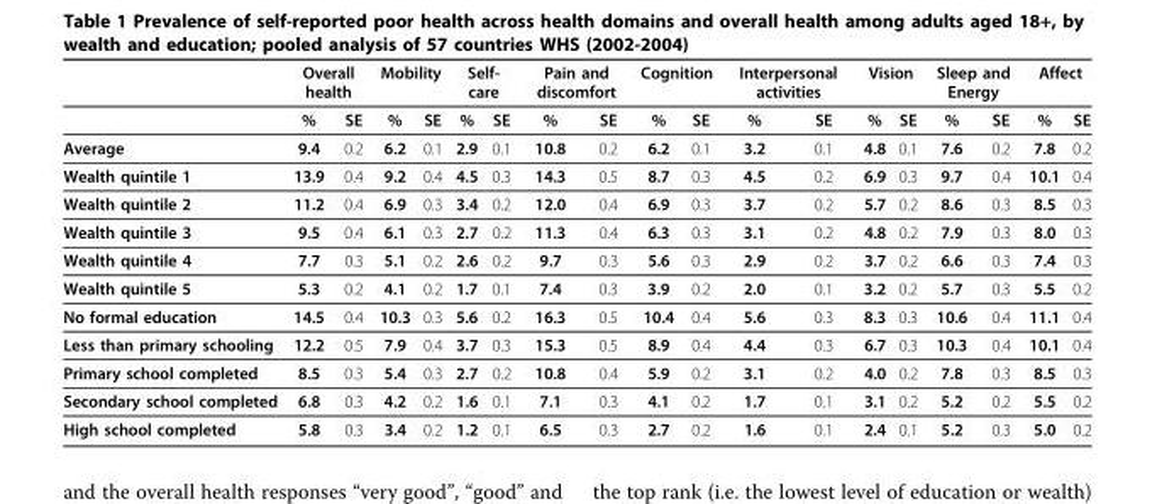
<table><thead><tr><td rowspan="2"></td><td colspan="2">Overall health</td><td colspan="2">Mobility</td><td colspan="2">Self- care</td><td colspan="2">Pain and discomfort</td><td colspan="2">Cognition</td><td colspan="2">Interpersonal activities</td><td colspan="2">Vision</td><td colspan="2">Sleep and Energy</td><td colspan="2">Affect</td></tr><tr><td>%</td><td>SE</td><td>%</td><td>SE</td><td>%</td><td>SE</td><td>%</td><td>SE</td><td>%</td><td>SE</td><td>%</td><td>SE</td><td>%</td><td>SE</td><td>%</td><td>SE</td><td>%</td><td>SE</td></tr></thead><tbody><tr><td>Average</td><td>9.4</td><td>0.2</td><td>6.2</td><td>0.1</td><td>2.9</td><td>0.1</td><td>10.8</td><td>0.2</td><td>6.2</td><td>0.1</td><td>3.2</td><td>0.1</td><td>4.8</td><td>0.1</td><td>7.6</td><td>0.2</td><td>7.8</td><td>0.2</td></tr><tr><td>Wealth quintile 1</td><td>13.9</td><td>0.4</td><td>9.2</td><td>0.4</td><td>4.5</td><td>0.3</td><td>14.3</td><td>0.5</td><td>8.7</td><td>0.3</td><td>4.5</td><td>0.2</td><td>6.9</td><td>0.3</td><td>9.7</td><td>0.4</td><td>10.1</td><td>0.4</td></tr><tr><td>Wealth quintile 2</td><td>11.2</td><td>0.4</td><td>6.9</td><td>0.3</td><td>3.4</td><td>0.2</td><td>12.0</td><td>0.4</td><td>6.9</td><td>0.3</td><td>3.7</td><td>0.2</td><td>5.7</td><td>0.2</td><td>8.6</td><td>0.3</td><td>8.5</td><td>0.3</td></tr><tr><td>Wealth quintile 3</td><td>9.5</td><td>0.4</td><td>6.1</td><td>0.3</td><td>2.7</td><td>0.2</td><td>11.3</td><td>0.4</td><td>6.3</td><td>0.3</td><td>3.1</td><td>0.2</td><td>4.8</td><td>0.2</td><td>7.9</td><td>0.3</td><td>8.0</td><td>0.3</td></tr><tr><td>Wealth quintile 4</td><td>7.7</td><td>0.3</td><td>5.1</td><td>0.2</td><td>2.6</td><td>0.2</td><td>9.7</td><td>0.3</td><td>5.6</td><td>0.3</td><td>2.9</td><td>0.2</td><td>3.7</td><td>0.2</td><td>6.6</td><td>0.3</td><td>7.4</td><td>0.3</td></tr><tr><td>Wealth quintile 5</td><td>5.3</td><td>0.2</td><td>4.1</td><td>0.2</td><td>1.7</td><td>0.1</td><td>7.4</td><td>0.3</td><td>3.9</td><td>0.2</td><td>2.0</td><td>0.1</td><td>3.2</td><td>0.2</td><td>5.7</td><td>0.3</td><td>5.5</td><td>0.2</td></tr><tr><td>No formal education</td><td>14.5</td><td>0.4</td><td>10.3</td><td>0.3</td><td>5.6</td><td>0.2</td><td>16.3</td><td>0.5</td><td>10.4</td><td>0.4</td><td>5.6</td><td>0.3</td><td>8.3</td><td>0.3</td><td>10.6</td><td>0.4</td><td>11.1</td><td>0.4</td></tr><tr><td>Less than primary schooling</td><td>12.2</td><td>0.5</td><td>7.9</td><td>0.4</td><td>3.7</td><td>0.3</td><td>15.3</td><td>0.5</td><td>8.9</td><td>0.4</td><td>4.4</td><td>0.3</td><td>6.7</td><td>0.3</td><td>10.3</td><td>0.4</td><td>10.1</td><td>0.4</td></tr><tr><td>Primary school completed</td><td>8.5</td><td>0.3</td><td>5.4</td><td>0.3</td><td>2.7</td><td>0.2</td><td>10.8</td><td>0.4</td><td>5.9</td><td>0.2</td><td>3.1</td><td>0.2</td><td>4.0</td><td>0.2</td><td>7.8</td><td>0.3</td><td>8.5</td><td>0.3</td></tr><tr><td>Secondary school completed</td><td>6.8</td><td>0.3</td><td>4.2</td><td>0.2</td><td>1.6</td><td>0.1</td><td>7.1</td><td>0.3</td><td>4.1</td><td>0.2</td><td>1.7</td><td>0.1</td><td>3.1</td><td>0.2</td><td>5.2</td><td>0.2</td><td>5.5</td><td>0.2</td></tr><tr><td>High school completed</td><td>5.8</td><td>0.3</td><td>3.4</td><td>0.2</td><td>1.2</td><td>0.1</td><td>6.5</td><td>0.3</td><td>2.7</td><td>0.2</td><td>1.6</td><td>0.1</td><td>2.4</td><td>0.1</td><td>5.2</td><td>0.3</td><td>5.0</td><td>0.2</td></tr></tbody></table>